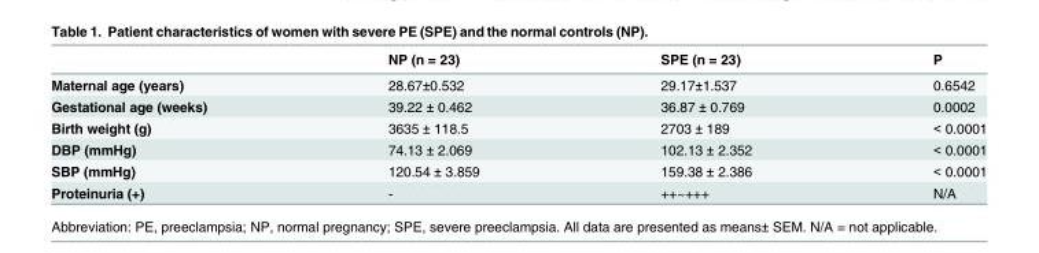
<table><thead><tr><td></td><td>NP (n = 23)</td><td>SPE (n = 23)</td><td>P</td></tr></thead><tbody><tr><td>Maternal age (years)</td><td>28.67±0.532</td><td>29.17±1.537</td><td>0.6542</td></tr><tr><td>Gestational age (weeks)</td><td>39.22 ± 0.462</td><td>36.87 ± 0.769</td><td>0.0002</td></tr><tr><td>Birth weight (g)</td><td>3635 ± 118.5</td><td>2703 ± 189</td><td>&lt; 0.0001</td></tr><tr><td>DBP (mmHg)</td><td>74.13 ± 2.069</td><td>102.13 ± 2.352</td><td>&lt; 0.0001</td></tr><tr><td>SBP (mmHg)</td><td>120.54 ± 3.859</td><td>159.38 ± 2.386</td><td>&lt; 0.0001</td></tr><tr><td>Proteinuria (+)</td><td>-</td><td>++~+++</td><td>N/A</td></tr></tbody></table>